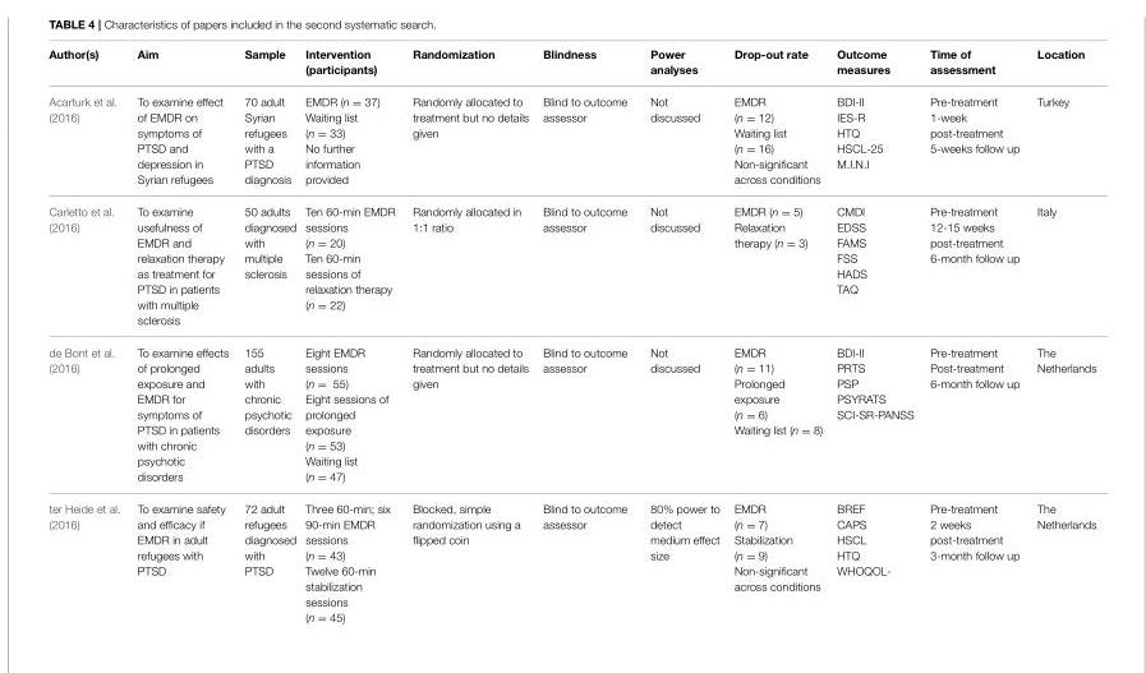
<table><thead><tr><td>Author(s)</td><td>Aim</td><td>Sample</td><td>Intervention (participants)</td><td>Randomization</td><td>Blindness</td><td>Power analyses</td><td>Drop-out rate</td><td>Outcome measures</td><td>Time of assessment</td><td>Location</td></tr></thead><tbody><tr><td>Acarturk et al. (2016)</td><td>To examine effect of EMDR on symptoms of PTSD and depression in Syrian refugees</td><td>70 adult Syrian refugees with a PTSD diagnosis</td><td>EMDR (n = 37) Waiting list (n = 33) No further information provided</td><td>Randomly allocated to treatment but no details given</td><td>Blind to outcome assessor</td><td>Not discussed</td><td>EMDR (n = 12) Waiting list (n = 16) Non-significant across conditions</td><td>BDI-II IES-R HTQ HSCL-25 M.I.N.I</td><td>Pre-treatment 1-week post-treatment 5-weeks follow up</td><td>Turkey</td></tr><tr><td>Carletto et al. (2016)</td><td>To examine usefulness of EMDR and relaxation therapy as treatment for PTSD in patients with multiple sclerosis</td><td>50 adults diagnosed with multiple sclerosis</td><td>Ten 60-min EMDR sessions (n = 20) Ten 60-min sessions of relaxation therapy (n = 22)</td><td>Randomly allocated in 1:1 ratio</td><td>Blind to outcome assessor</td><td>Not discussed</td><td>EMDR (n = 5) Relaxation therapy (n = 3)</td><td>CMDI EDSS FAMS FSS HADS TAQ</td><td>Pre-treatment 12-15 weeks post-treatment 6-month follow up</td><td>Italy</td></tr><tr><td>de Bont et al. (2016)</td><td>To examine effects of prolonged exposure and EMDR for symptoms of PTSD in patients with chronic psychotic disorders</td><td>155 adults with chronic psychotic disorders</td><td>Eight EMDR sessions (n = 55) Eight sessions of prolonged exposure (n = 53) Waiting list (n = 47)</td><td>Randomly allocated to treatment but no details given</td><td>Blind to outcome assessor</td><td>Not discussed</td><td>EMDR (n = 11) Prolonged exposure (n = 6) Waiting list (n = 8)</td><td>BDI-II PRTS PSP PSYRATS SCI-SR-PANSS</td><td>Pre-treatment Post-treatment 6-month follow up</td><td>The Netherlands</td></tr><tr><td>ter Heide et al. (2016)</td><td>To examine safety and efficacy if EMDR in adult refugees with PTSD</td><td>72 adult refugees diagnosed with PTSD</td><td>Three 60-min; six 90-min EMDR sessions (n = 43) Twelve 60-min stabilization sessions (n = 45)</td><td>Blocked, simple randomization using a flipped coin</td><td>Blind to outcome assessor</td><td>80% power to detect medium effect size</td><td>EMDR (n = 7) Stabilization (n = 9) Non-significant across conditions</td><td>BREF CAPS HSCL HTQ WHOQOL-</td><td>Pre-treatment 2 weeks post-treatment 3-month follow up</td><td>The Netherlands</td></tr></tbody></table>